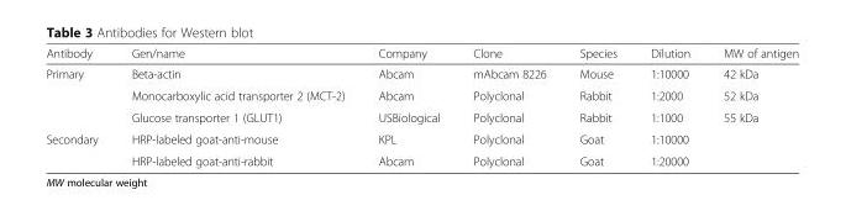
<table><thead><tr><td>Antibody</td><td>Gen/name</td><td>Company</td><td>Clone</td><td>Species</td><td>Dilution</td><td>MW of antigen</td></tr></thead><tbody><tr><td rowspan="3">Primary</td><td>Beta-actin</td><td>Abcam</td><td>mAbcam 8226</td><td>Mouse</td><td>1:10000</td><td>42 kDa</td></tr><tr><td>Monocarboxylic acid transporter 2 (MCT-2)</td><td>Abcam</td><td>Polyclonal</td><td>Rabbit</td><td>1:2000</td><td>52 kDa</td></tr><tr><td>Glucose transporter 1 (GLUT1)</td><td>USBiological</td><td>Polyclonal</td><td>Rabbit</td><td>1:1000</td><td>55 kDa</td></tr><tr><td rowspan="2">Secondary</td><td>HRP-labeled goat-anti-mouse</td><td>KPL</td><td>Polyclonal</td><td>Goat</td><td>1:10000</td><td></td></tr><tr><td>HRP-labeled goat-anti-rabbit</td><td>Abcam</td><td>Polyclonal</td><td>Goat</td><td>1:20000</td><td></td></tr></tbody></table>